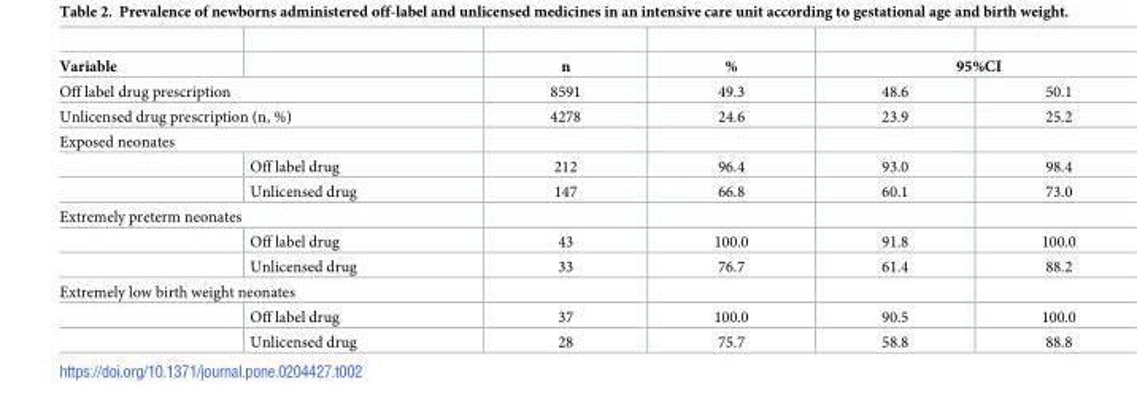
<table><thead><tr><td>Variable</td><td></td><td rowspan="2">n 8591</td><td rowspan="2">% 49.3</td><td colspan="2">95%CI</td></tr><tr><td colspan="2">Off label drug prescription</td><td>48.6</td><td>50.1</td></tr></thead><tbody><tr><td colspan="2">Unlicensed drug prescription (n, %)</td><td>4278</td><td>24.6</td><td>23.9</td><td>25.2</td></tr><tr><td colspan="6">Exposed neonates</td></tr><tr><td></td><td>Off label drug</td><td>212</td><td>96.4</td><td>93.0</td><td>98.4</td></tr><tr><td></td><td>Unlicensed drug</td><td>147</td><td>66.8</td><td>60.1</td><td>73.0</td></tr><tr><td colspan="6">Extremely preterm neonates</td></tr><tr><td></td><td>Off label drug</td><td>43</td><td>100.0</td><td>91.8</td><td>100.0</td></tr><tr><td></td><td>Unlicensed drug</td><td>33</td><td>76.7</td><td>61.4</td><td>88.2</td></tr><tr><td colspan="6">Extremely low birth weight neonates</td></tr><tr><td></td><td>Off label drug</td><td>37</td><td>100.0</td><td>90.5</td><td>100.0</td></tr><tr><td></td><td>Unlicensed drug</td><td>28</td><td>75.7</td><td>58.8</td><td>88.8</td></tr></tbody></table>